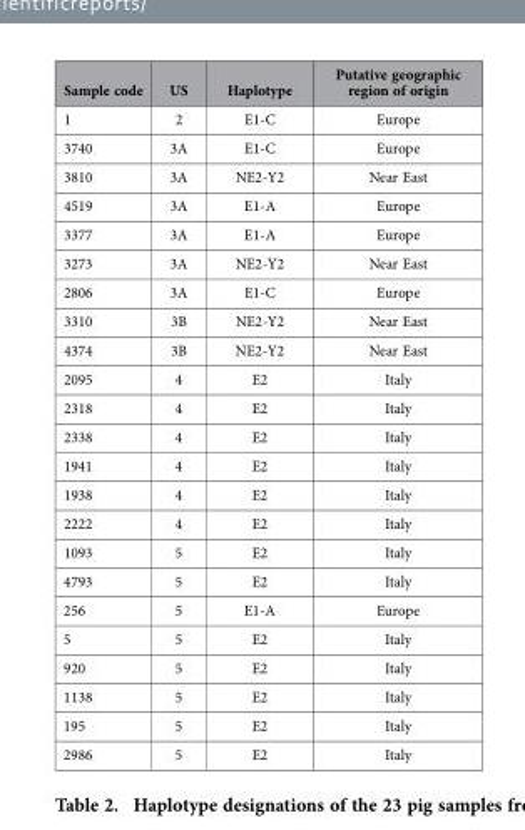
<table><thead><tr><td>Sample code</td><td>US</td><td>Haplotype</td><td>Putative geographic region of origin</td></tr></thead><tbody><tr><td>1</td><td>2</td><td>E1-C</td><td>Europe</td></tr><tr><td>3740</td><td>3A</td><td>E1-C</td><td>Europe</td></tr><tr><td>3810</td><td>3A</td><td>NE2-Y2</td><td>Near East</td></tr><tr><td>4519</td><td>3A</td><td>E1-A</td><td>Europe</td></tr><tr><td>3377</td><td>3A</td><td>E1-A</td><td>Europe</td></tr><tr><td>3273</td><td>3A</td><td>NE2-Y2</td><td>Near East</td></tr><tr><td>2806</td><td>3A</td><td>E1-C</td><td>Europe</td></tr><tr><td>3310</td><td>3B</td><td>NE2-Y2</td><td>Near East</td></tr><tr><td>4374</td><td>3B</td><td>NE2-Y2</td><td>Near East</td></tr><tr><td>2095</td><td>4</td><td>E2</td><td>Italy</td></tr><tr><td>2318</td><td>4</td><td>E2</td><td>Italy</td></tr><tr><td>2338</td><td>4</td><td>E2</td><td>Italy</td></tr><tr><td>1941</td><td>4</td><td>E2</td><td>Italy</td></tr><tr><td>1938</td><td>4</td><td>E2</td><td>Italy</td></tr><tr><td>2222</td><td>4</td><td>E2</td><td>Italy</td></tr><tr><td>1093</td><td>5</td><td>E2</td><td>Italy</td></tr><tr><td>4793</td><td>5</td><td>E2</td><td>Italy</td></tr><tr><td>256</td><td>5</td><td>E1-A</td><td>Europe</td></tr><tr><td>5</td><td>5</td><td>E2</td><td>Italy</td></tr><tr><td>920</td><td>5</td><td>E2</td><td>Italy</td></tr><tr><td>1138</td><td>5</td><td>E2</td><td>Italy</td></tr><tr><td>195</td><td>5</td><td>E2</td><td>Italy</td></tr><tr><td>2986</td><td>5</td><td>E2</td><td>Italy</td></tr></tbody></table>